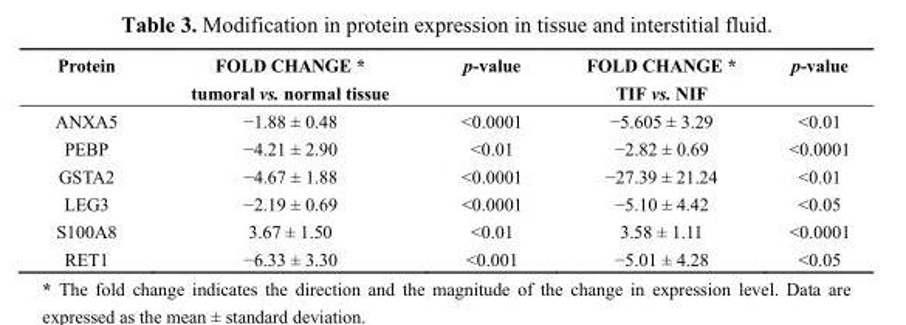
<table><thead><tr><td>Protein</td><td>FOLD CHANGE * tumoral vs. normal tissue</td><td>p-value</td><td>FOLD CHANGE * TIF vs. NIF</td><td>p-value</td></tr></thead><tbody><tr><td>ANXA5</td><td>−1.88 ± 0.48</td><td>&lt;0.0001</td><td>−5.605 ± 3.29</td><td>&lt;0.01</td></tr><tr><td>PEBP</td><td>−4.21 ± 2.90</td><td>&lt;0.01</td><td>−2.82 ± 0.69</td><td>&lt;0.0001</td></tr><tr><td>GSTA2</td><td>−4.67 ± 1.88</td><td>&lt;0.0001</td><td>−27.39 ± 21.24</td><td>&lt;0.01</td></tr><tr><td>LEG3</td><td>−2.19 ± 0.69</td><td>&lt;0.0001</td><td>−5.10 ± 4.42</td><td>&lt;0.05</td></tr><tr><td>S100A8</td><td>3.67 ± 1.50</td><td>&lt;0.01</td><td>3.58 ± 1.11</td><td>&lt;0.0001</td></tr><tr><td>RET1</td><td>−6.33 ± 3.30</td><td>&lt;0.001</td><td>−5.01 ± 4.28</td><td>&lt;0.05</td></tr></tbody></table>